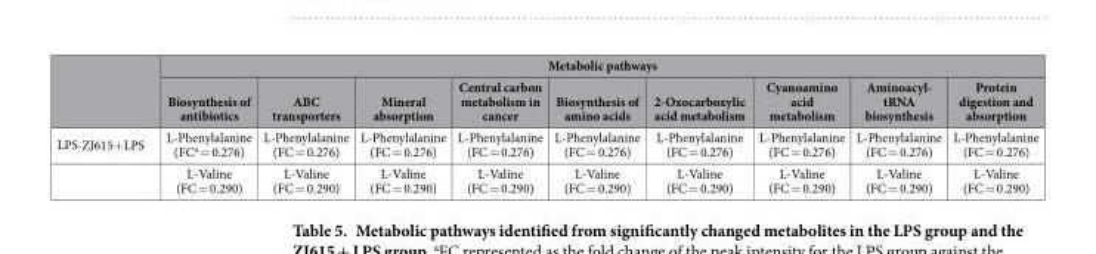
<table><thead><tr><td rowspan="2"></td><td colspan="9">Metabolic pathways</td></tr><tr><td>Biosynthesis of antibiotics</td><td>ABC transporters</td><td>Mineral absorption</td><td>Central carbon metabolism in cancer</td><td>Biosynthesis of amino acids</td><td>2-Oxocarboxylic acid metabolism</td><td>Cyanoamino acid metabolism</td><td>Aminoacyl- tRNA biosynthesis</td><td>Protein digestion and absorption</td></tr></thead><tbody><tr><td rowspan="2">LPS-ZJ615+ LPS</td><td>L-Phenylalanine (FC<sup>a</sup> = 0.276)</td><td>L-Phenylalanine (FC = 0.276)</td><td>L-Phenylalanine (FC = 0.276)</td><td>L-Phenylalanine (FC = 0.276)</td><td>L-Phenylalanine (FC = 0.276)</td><td>L-Phenylalanine (FC = 0.276)</td><td>L-Phenylalanine (FC = 0.276)</td><td>L-Phenylalanine (FC = 0.276)</td><td>L-Phenylalanine (FC = 0.276)</td></tr><tr><td>L-Valine (FC = 0.290)</td><td>L-Valine (FC = 0.290)</td><td>L-Valine (FC = 0.290)</td><td>L-Valine (FC = 0.290)</td><td>L-Valine (FC = 0.290)</td><td>L-Valine (FC = 0.290)</td><td>L-Valine (FC = 0.290)</td><td>L-Valine (FC = 0.290)</td><td>L-Valine (FC = 0.290)</td></tr></tbody></table>